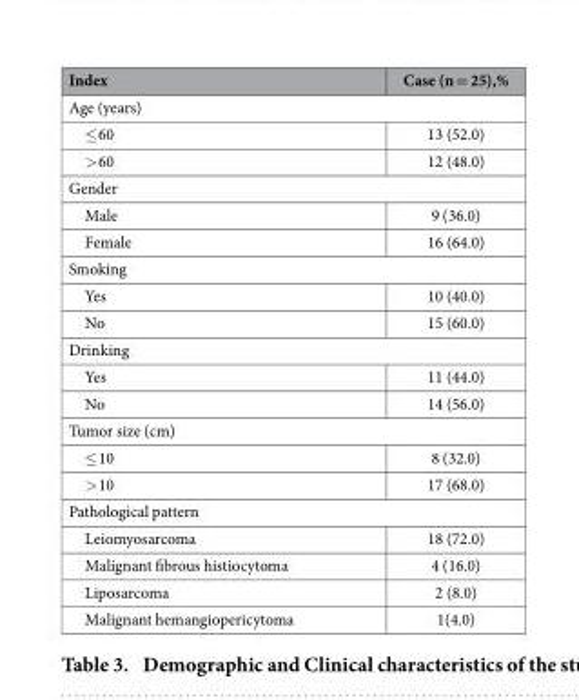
<table><thead><tr><td>Index</td><td>Case (n = 25),%</td></tr></thead><tbody><tr><td colspan="2">Age (years)</td></tr><tr><td>≤ 60</td><td>13 (52.0)</td></tr><tr><td>&gt; 60</td><td>12 (48.0)</td></tr><tr><td colspan="2">Gender</td></tr><tr><td>Male</td><td>9 (36.0)</td></tr><tr><td>Female</td><td>16 (64.0)</td></tr><tr><td colspan="2">Smoking</td></tr><tr><td>Yes</td><td>10 (40.0)</td></tr><tr><td>No</td><td>15 (60.0)</td></tr><tr><td colspan="2">Drinking</td></tr><tr><td>Yes</td><td>11 (44.0)</td></tr><tr><td>No</td><td>14 (56.0)</td></tr><tr><td colspan="2">Tumor size (cm)</td></tr><tr><td>≤ 10</td><td>8 (32.0)</td></tr><tr><td>&gt; 10</td><td>17 (68.0)</td></tr><tr><td colspan="2">Pathological pattern</td></tr><tr><td>Leiomyosarcoma</td><td>18 (72.0)</td></tr><tr><td>Malignant fibrous histiocytoma</td><td>4 (16.0)</td></tr><tr><td>Liposarcoma</td><td>2 (8.0)</td></tr><tr><td>Malignant hemangiopericytoma</td><td>1(4.0)</td></tr></tbody></table>